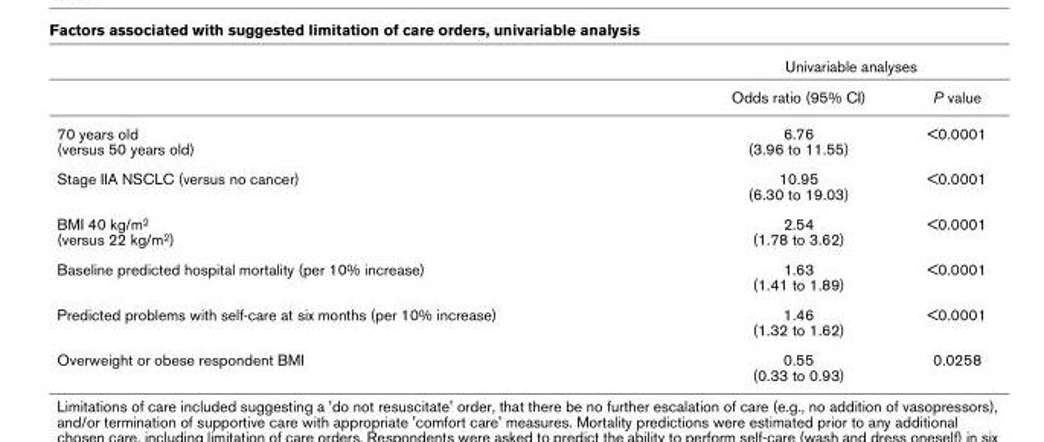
<table><thead><tr><td rowspan="2"></td><td colspan="2">Univariable analyses</td></tr><tr><td>Odds ratio (95% CI)</td><td>P value</td></tr></thead><tbody><tr><td>70 years old (versus 50 years old)</td><td>6.76 (3.96 to 11.55)</td><td>&lt;0.0001</td></tr><tr><td>Stage IIA NSCLC (versus no cancer)</td><td>10.95 (6.30 to 19.03)</td><td>&lt;0.0001</td></tr><tr><td>BMI 40 kg/m<sup>2</sup> (versus 22 kg/m<sup>2</sup>)</td><td>2.54 (1.78 to 3.62)</td><td>&lt;0.0001</td></tr><tr><td>Baseline predicted hospital mortality (per 10% increase)</td><td>1.63 (1.41 to 1.89)</td><td>&lt;0.0001</td></tr><tr><td>Predicted problems with self-care at six months (per 10% increase)</td><td>1.46 (1.32 to 1.62)</td><td>&lt;0.0001</td></tr><tr><td>Overweight or obese respondent BMI</td><td>0.55 (0.33 to 0.93)</td><td>0.0258</td></tr></tbody></table>